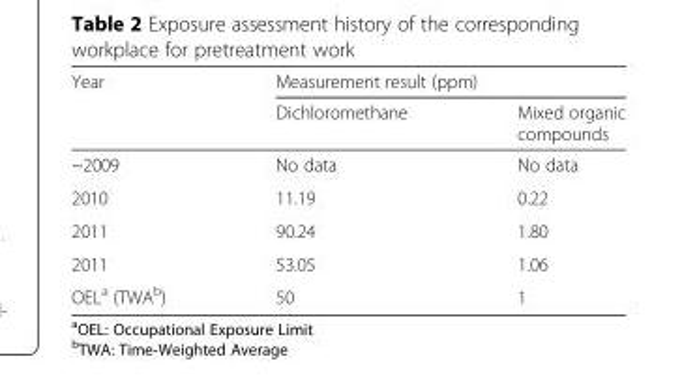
<table><thead><tr><td rowspan="2">Year</td><td colspan="2">Measurement result (ppm)</td></tr><tr><td>Dichloromethane</td><td>Mixed organic compounds</td></tr></thead><tbody><tr><td>~2009</td><td>No data</td><td>No data</td></tr><tr><td>2010</td><td>11.19</td><td>0.22</td></tr><tr><td>2011</td><td>90.24</td><td>1.80</td></tr><tr><td>2011</td><td>53.05</td><td>1.06</td></tr><tr><td>OEL<sup>a</sup> (TWA<sup>b</sup>)</td><td>50</td><td>1</td></tr></tbody></table>